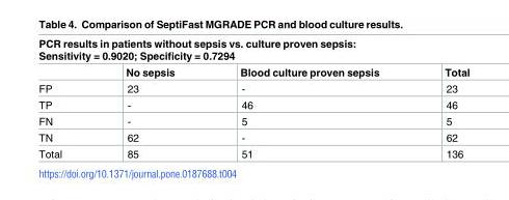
<table><thead><tr><td colspan="4">PCR results in patients without sepsis vs. culture proven sepsis: Sensitivity = 0.9020; Specificity = 0.7294</td></tr><tr><td></td><td>No sepsis</td><td>Blood culture proven sepsis</td><td>Total</td></tr></thead><tbody><tr><td>FP</td><td>23</td><td>-</td><td>23</td></tr><tr><td>TP</td><td>-</td><td>46</td><td>46</td></tr><tr><td>FN</td><td>-</td><td>5</td><td>5</td></tr><tr><td>TN</td><td>62</td><td>-</td><td>62</td></tr><tr><td>Total</td><td>85</td><td>51</td><td>136</td></tr></tbody></table>